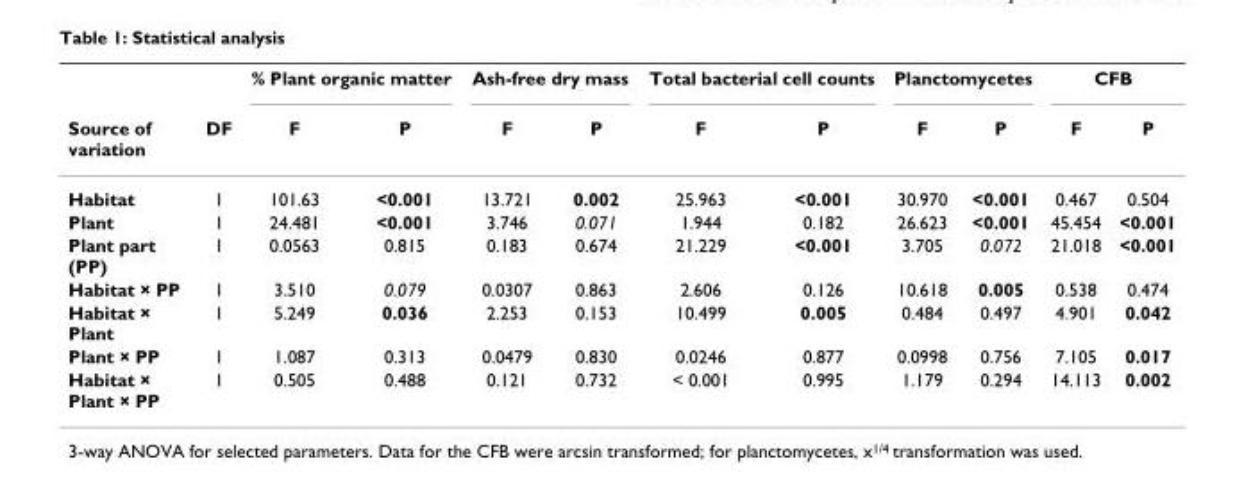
<table><thead><tr><td rowspan="2">Source of variation</td><td rowspan="2">DF</td><td colspan="2">% Plant organic matter</td><td colspan="2">Ash-free dry mass</td><td colspan="2">Total bacterial cell counts</td><td colspan="2">Planctomycetes</td><td colspan="2">CFB</td></tr><tr><td>F</td><td>P</td><td>F</td><td>P</td><td>F</td><td>P</td><td>F</td><td>P</td><td>F</td><td>P</td></tr></thead><tbody><tr><td>Habitat</td><td>1</td><td>101.63</td><td>&lt;0.001</td><td>13.721</td><td>0.002</td><td>25.963</td><td>&lt;0.001</td><td>30.970</td><td>&lt;0.001</td><td>0.467</td><td>0.504</td></tr><tr><td>Plant</td><td>1</td><td>24.481</td><td>&lt;0.001</td><td>3.746</td><td>0.071</td><td>1.944</td><td>0.182</td><td>26.623</td><td>&lt;0.001</td><td>45.454</td><td>&lt;0.001</td></tr><tr><td>Plant part (PP)</td><td>1</td><td>0.0563</td><td>0.815</td><td>0.183</td><td>0.674</td><td>21.229</td><td>&lt;0.001</td><td>3.705</td><td>0.072</td><td>21.018</td><td>&lt;0.001</td></tr><tr><td>Habitat × PP</td><td>1</td><td>3.510</td><td>0.079</td><td>0.0307</td><td>0.863</td><td>2.606</td><td>0.126</td><td>10.618</td><td>0.005</td><td>0.538</td><td>0.474</td></tr><tr><td>Habitat × Plant</td><td>1</td><td>5.249</td><td>0.036</td><td>2.253</td><td>0.153</td><td>10.499</td><td>0.005</td><td>0.484</td><td>0.497</td><td>4.901</td><td>0.042</td></tr><tr><td>Plant × PP</td><td>1</td><td>1.087</td><td>0.313</td><td>0.0479</td><td>0.830</td><td>0.0246</td><td>0.877</td><td>0.0998</td><td>0.756</td><td>7.105</td><td>0.017</td></tr><tr><td>Habitat × Plant × PP</td><td>1</td><td>0.505</td><td>0.488</td><td>0.121</td><td>0.732</td><td>&lt; 0.001</td><td>0.995</td><td>1.179</td><td>0.294</td><td>14.113</td><td>0.002</td></tr></tbody></table>